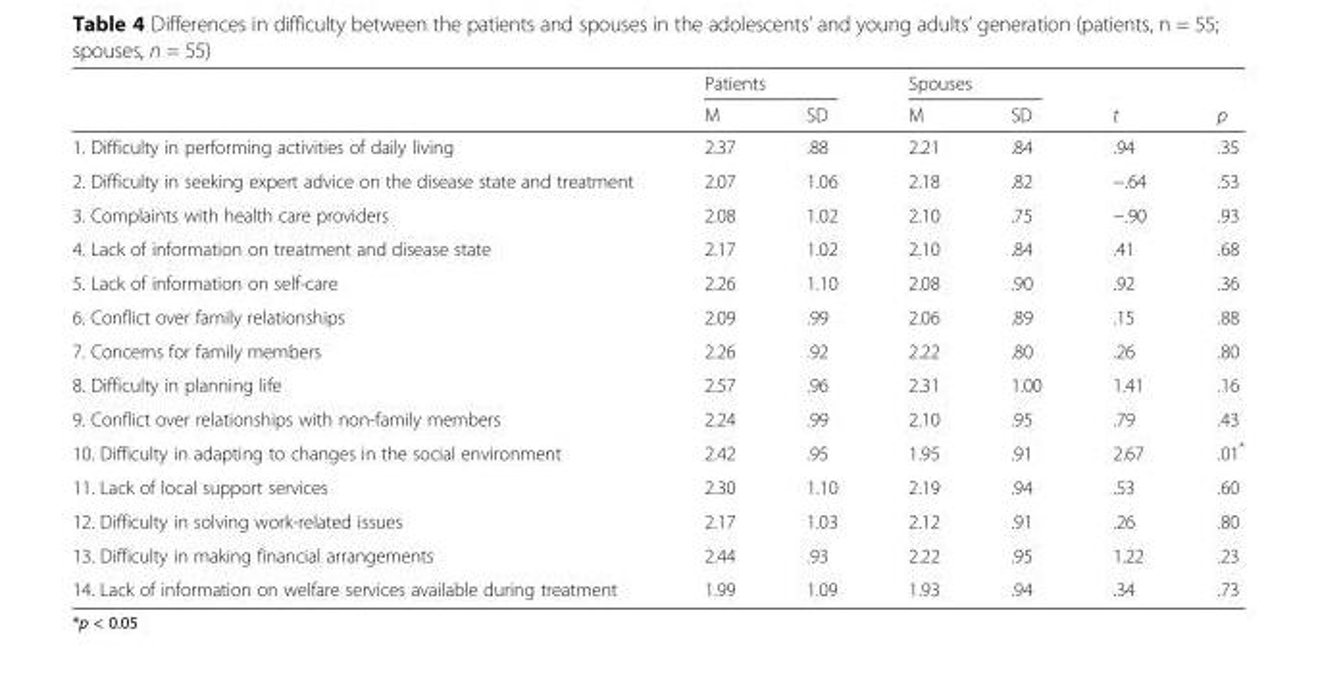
<table><thead><tr><td rowspan="2"></td><td colspan="2">Patients</td><td colspan="2">Spouses</td><td rowspan="2">t</td><td rowspan="2">p</td></tr><tr><td>M</td><td>SD</td><td>M</td><td>SD</td></tr></thead><tbody><tr><td>1. Difficulty in performing activities of daily living</td><td>2.37</td><td>.88</td><td>2.21</td><td>.84</td><td>.94</td><td>.35</td></tr><tr><td>2. Difficulty in seeking expert advice on the disease state and treatment</td><td>2.07</td><td>1.06</td><td>2.18</td><td>.82</td><td>−.64</td><td>.53</td></tr><tr><td>3. Complaints with health care providers</td><td>2.08</td><td>1.02</td><td>2.10</td><td>.75</td><td>−.90</td><td>.93</td></tr><tr><td>4. Lack of information on treatment and disease state</td><td>2.17</td><td>1.02</td><td>2.10</td><td>.84</td><td>.41</td><td>.68</td></tr><tr><td>5. Lack of information on self-care</td><td>2.26</td><td>1.10</td><td>2.08</td><td>.90</td><td>.92</td><td>.36</td></tr><tr><td>6. Conflict over family relationships</td><td>2.09</td><td>.99</td><td>2.06</td><td>.89</td><td>.15</td><td>.88</td></tr><tr><td>7. Concerns for family members</td><td>2.26</td><td>.92</td><td>2.22</td><td>.80</td><td>.26</td><td>.80</td></tr><tr><td>8. Difficulty in planning life</td><td>2.57</td><td>.96</td><td>2.31</td><td>1.00</td><td>1.41</td><td>.16</td></tr><tr><td>9. Conflict over relationships with non-family members</td><td>2.24</td><td>.99</td><td>2.10</td><td>.95</td><td>.79</td><td>.43</td></tr><tr><td>10. Difficulty in adapting to changes in the social environment</td><td>2.42</td><td>.95</td><td>1.95</td><td>.91</td><td>2.67</td><td>.01*</td></tr><tr><td>11. Lack of local support services</td><td>2.30</td><td>1.10</td><td>2.19</td><td>.94</td><td>.53</td><td>.60</td></tr><tr><td>12. Difficulty in solving work-related issues</td><td>2.17</td><td>1.03</td><td>2.12</td><td>.91</td><td>.26</td><td>.80</td></tr><tr><td>13. Difficulty in making financial arrangements</td><td>2.44</td><td>.93</td><td>2.22</td><td>.95</td><td>1.22</td><td>.23</td></tr><tr><td>14. Lack of information on welfare services available during treatment</td><td>1.99</td><td>1.09</td><td>1.93</td><td>.94</td><td>.34</td><td>.73</td></tr></tbody></table>